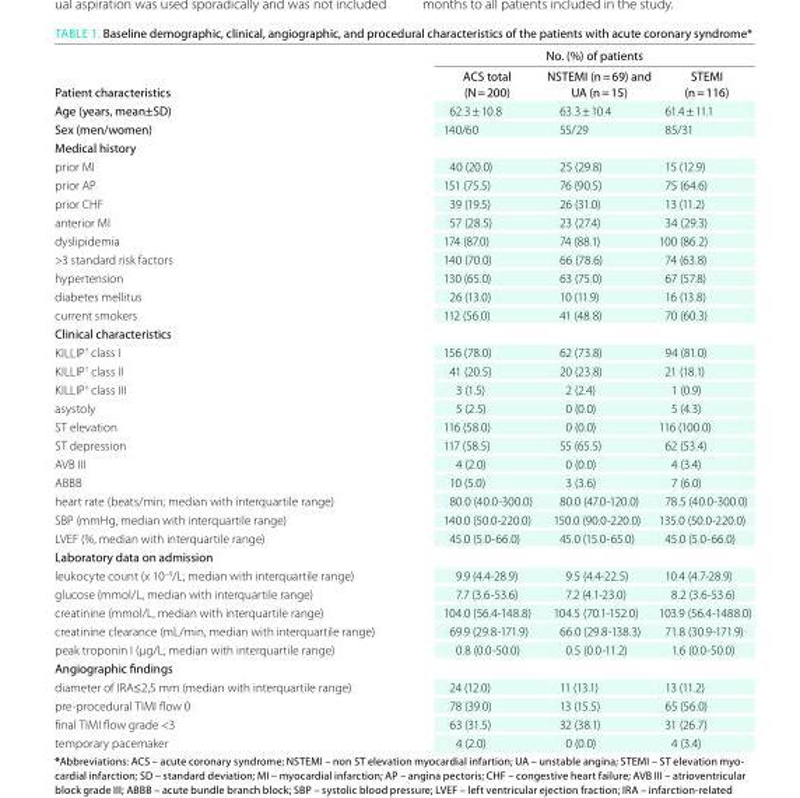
<table><thead><tr><td rowspan="2">Patient characteristics</td><td colspan="3">No. (%) of patients</td></tr><tr><td>ACS total (N = 200)</td><td>NSTEMI (n = 69) and UA (n = 15)</td><td>STEMI (n = 116)</td></tr></thead><tbody><tr><td>Age (years, mean±SD)</td><td>62.3 ± 10.8</td><td>63.3 ± 10.4</td><td>61.4 ± 11.1</td></tr><tr><td>Sex (men/women)</td><td>140/60</td><td>55/29</td><td>85/31</td></tr><tr><td colspan="4">Medical history</td></tr><tr><td>prior MI</td><td>40 (20.0)</td><td>25 (29.8)</td><td>15 (12.9)</td></tr><tr><td>prior AP</td><td>151 (75.5)</td><td>76 (90.5)</td><td>75 (64.6)</td></tr><tr><td>prior CHF</td><td>39 (19.5)</td><td>26 (31.0)</td><td>13 (11.2)</td></tr><tr><td>anterior MI</td><td>57 (28.5)</td><td>23 (27.4)</td><td>34 (29.3)</td></tr><tr><td>dyslipidemia</td><td>174 (87.0)</td><td>74 (88.1)</td><td>100 (86.2)</td></tr><tr><td>&gt;3 standard risk factors</td><td>140 (70.0)</td><td>66 (78.6)</td><td>74 (63.8)</td></tr><tr><td>hypertension</td><td>130 (65.0)</td><td>63 (75.0)</td><td>67 (57.8)</td></tr><tr><td>diabetes mellitus</td><td>26 (13.0)</td><td>10 (11.9)</td><td>16 (13.8)</td></tr><tr><td>current smokers</td><td>112 (56.0)</td><td>41 (48.8)</td><td>70 (60.3)</td></tr><tr><td colspan="4">Clinical characteristics</td></tr><tr><td>KILLIP<sup>†</sup> class I</td><td>156 (78.0)</td><td>62 (73.8)</td><td>94 (81.0)</td></tr><tr><td>KILLIP<sup>†</sup> class II</td><td>41 (20.5)</td><td>20 (23.8)</td><td>21 (18.1)</td></tr><tr><td>KILLIP<sup>†</sup> class III</td><td>3 (1.5)</td><td>2 (2.4)</td><td>1 (0.9)</td></tr><tr><td>asystoly</td><td>5 (2.5)</td><td>0 (0.0)</td><td>5 (4.3)</td></tr><tr><td>ST elevation</td><td>116 (58.0)</td><td>0 (0.0)</td><td>116 (100.0)</td></tr><tr><td>ST depression</td><td>117 (58.5)</td><td>55 (65.5)</td><td>62 (53.4)</td></tr><tr><td>AVB III</td><td>4 (2.0)</td><td>0 (0.0)</td><td>4 (3.4)</td></tr><tr><td>ABBB</td><td>10 (5.0)</td><td>3 (3.6)</td><td>7 (6.0)</td></tr><tr><td>heart rate (beats/min; median with interquartile range)</td><td>80.0 (40.0-300.0)</td><td>80.0 (47.0-120.0)</td><td>78.5 (40.0-300.0)</td></tr><tr><td>SBP (mmHg, median with interquartile range)</td><td>140.0 (50.0-220.0)</td><td>150.0 (90.0-220.0)</td><td>135.0 (50.0-220.0)</td></tr><tr><td>LVEF (%, median with interquartile range)</td><td>45.0 (5.0-66.0)</td><td>45.0 (15.0-65.0)</td><td>45.0 (5.0-66.0)</td></tr><tr><td colspan="4">laboratory data on admission</td></tr><tr><td>leukocyte count (x 10<sup>−9</sup>/L; median with interquartile range)</td><td>9.9 (4.4-28.9)</td><td>9.5 (4.4-22.5)</td><td>10.4 (4.7-28.9)</td></tr><tr><td>glucose (mmol/L, median with interquartile range)</td><td>7.7 (3.6-53.6)</td><td>7.2 (4.1-23.0)</td><td>8.2 (3.6-53.6)</td></tr><tr><td>creatinine (mmol/L, median with interquartile range)</td><td>104.0 (56.4-148.8)</td><td>104.5 (70.1-152.0)</td><td>103.9 (56.4-1488.0)</td></tr><tr><td>creatinine clearance (mL/min, median with interquartile range)</td><td>69.9 (29.8-171.9)</td><td>66.0 (29.8-138.3)</td><td>71.8 (30.9-171.9)</td></tr><tr><td>peak troponin I (µg/L; median with interquartile range)</td><td>0.8 (0.0-50.0)</td><td>0.5 (0.0-11.2)</td><td>1.6 (0.0-50.0)</td></tr><tr><td colspan="4">Angiographic findings</td></tr><tr><td>diameter of IRA≤2,5 mm (median with interquartile range)</td><td>24 (12.0)</td><td>11 (13.1)</td><td>13 (11.2)</td></tr><tr><td>pre-procedural TIMI flow 0</td><td>78 (39.0)</td><td>13 (15.5)</td><td>65 (56.0)</td></tr><tr><td>final TIMI flow grade &lt;3</td><td>63 (31.5)</td><td>32 (38.1)</td><td>31 (26.7)</td></tr><tr><td>temporary pacemaker</td><td>4 (2.0)</td><td>0 (0.0)</td><td>4 (3.4)</td></tr></tbody></table>